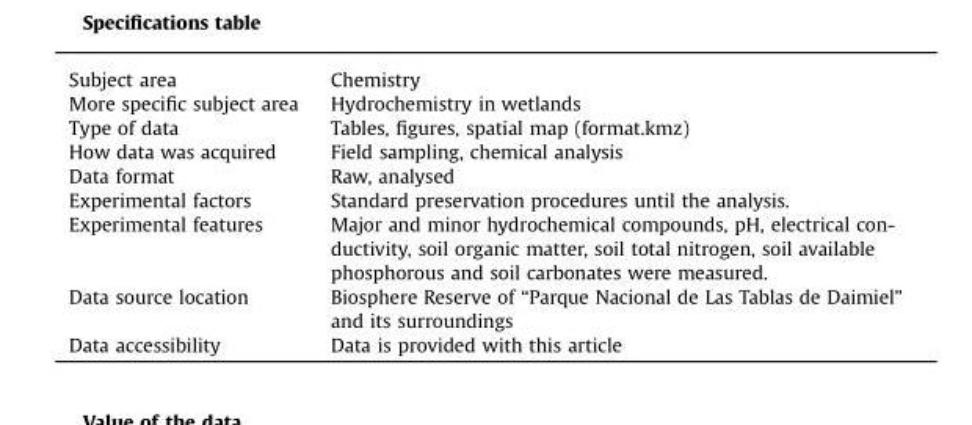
<table><tbody><tr><td>Subject area</td><td>Chemistry</td></tr><tr><td>More specific subject area</td><td>Hydrochemistry in wetlands</td></tr><tr><td>Type of data</td><td>Tables, figures, spatial map (format.kmz)</td></tr><tr><td>How data was acquired</td><td>Field sampling, chemical analysis</td></tr><tr><td>Data format</td><td>Raw, analysed</td></tr><tr><td>Experimental factors</td><td>Standard preservation procedures until the analysis.</td></tr><tr><td>Experimental features</td><td>Major and minor hydrochemical compounds, pH, electrical con- ductivity, soil organic matter, soil total nitrogen, soil available phosphorous and soil carbonates were measured.</td></tr><tr><td>Data source location</td><td>Biosphere Reserve of “Parque Nacional de Las Tablas de Daimiel” and its surroundings</td></tr><tr><td>Data accessibility</td><td>Data is provided with this article</td></tr></tbody></table>